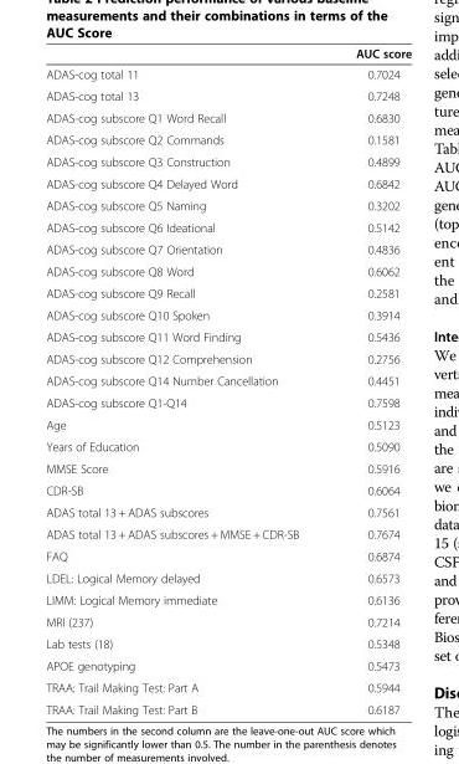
<table><thead><tr><td></td><td>AUC score</td></tr></thead><tbody><tr><td>ADAS-cog total 11</td><td>0.7024</td></tr><tr><td>ADAS-cog total 13</td><td>0.7248</td></tr><tr><td>ADAS-cog subscore Q1 Word Recall</td><td>0.6830</td></tr><tr><td>ADAS-cog subscore Q2 Commands</td><td>0.1581</td></tr><tr><td>ADAS-cog subscore Q3 Construction</td><td>0.4899</td></tr><tr><td>ADAS-cog subscore Q4 Delayed Word</td><td>0.6842</td></tr><tr><td>ADAS-cog subscore Q5 Naming</td><td>0.3202</td></tr><tr><td>ADAS-cog subscore Q6 Ideational</td><td>0.5142</td></tr><tr><td>ADAS-cog subscore Q7 Orientation</td><td>0.4836</td></tr><tr><td>ADAS-cog subscore Q8 Word</td><td>0.6062</td></tr><tr><td>ADAS-cog subscore Q9 Recall</td><td>0.2581</td></tr><tr><td>ADAS-cog subscore Q10 Spoken</td><td>0.3914</td></tr><tr><td>ADAS-cog subscore Q11 Word Finding</td><td>0.5436</td></tr><tr><td>ADAS-cog subscore Q12 Comprehension</td><td>0.2756</td></tr><tr><td>ADAS-cog subscore Q14 Number Cancellation</td><td>0.4451</td></tr><tr><td>ADAS-cog subscore Q1-Q14</td><td>0.7598</td></tr><tr><td>Age</td><td>0.5123</td></tr><tr><td>Years of Education</td><td>0.5090</td></tr><tr><td>MMSE Score</td><td>0.5916</td></tr><tr><td>CDR-SB</td><td>0.6064</td></tr><tr><td>ADAS total 13 + ADAS subscores</td><td>0.7561</td></tr><tr><td>ADAS total 13 + ADAS subscores + MMSE + CDR-SB</td><td>0.7674</td></tr><tr><td>FAQ</td><td>0.6874</td></tr><tr><td>LDEL: Logical Memory delayed</td><td>0.6573</td></tr><tr><td>LIMM: Logical Memory immediate</td><td>0.6136</td></tr><tr><td>MRI (237)</td><td>0.7214</td></tr><tr><td>Lab tests (18)</td><td>0.5348</td></tr><tr><td>APOE genotyping</td><td>0.5473</td></tr><tr><td>TRAA: Trail Making Test: Part A</td><td>0.5944</td></tr><tr><td>TRAA: Trail Making Test: Part B</td><td>0.6187</td></tr></tbody></table>